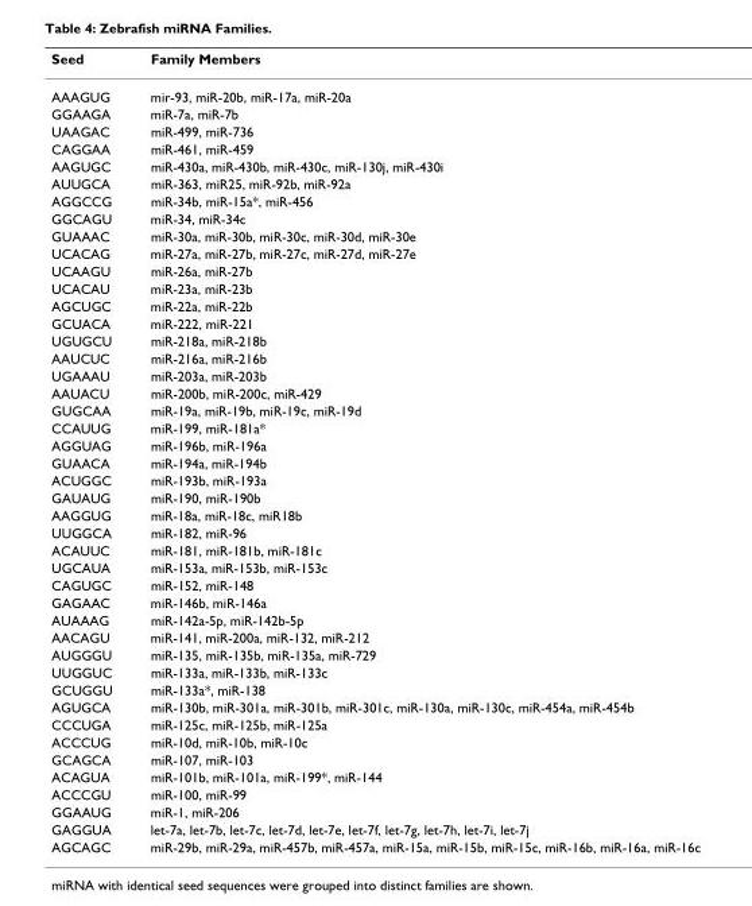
<table><thead><tr><td>Seed</td><td>Family Members</td></tr></thead><tbody><tr><td>AAAGUG</td><td>mir-93, miR-20b, miR-17a, miR-20a</td></tr><tr><td>GGAAGA</td><td>miR-7a, miR-7b</td></tr><tr><td>UAAGAC</td><td>miR-499, miR-736</td></tr><tr><td>CAGGAA</td><td>miR-461, miR-459</td></tr><tr><td>AAGUGC</td><td>miR-430a, miR-430b, miR-430c, miR-130j, miR-430i</td></tr><tr><td>AUUGCA</td><td>miR-363, miR25, miR-92b, miR-92a</td></tr><tr><td>AGGCCG</td><td>miR-34b, miR-15a*, miR-456</td></tr><tr><td>GGCAGU</td><td>miR-34, miR-34c</td></tr><tr><td>GUAAAC</td><td>miR-30a, miR-30b, miR-30c, miR-30d, miR-30e</td></tr><tr><td>UCACAG</td><td>miR-27a, miR-27b, miR-27c, miR-27d, miR-27e</td></tr><tr><td>UCAAGU</td><td>miR-26a, miR-27b</td></tr><tr><td>UCACAU</td><td>miR-23a, miR-23b</td></tr><tr><td>AGCUGC</td><td>miR-22a, miR-22b</td></tr><tr><td>GCUACA</td><td>miR-222, miR-221</td></tr><tr><td>UGUGCU</td><td>miR-218a, miR-218b</td></tr><tr><td>AAUCUC</td><td>miR-216a, miR-216b</td></tr><tr><td>UGAAAU</td><td>miR-203a, miR-203b</td></tr><tr><td>AAUACU</td><td>miR-200b, miR-200c, miR-429</td></tr><tr><td>GUGCAA</td><td>miR-19a, miR-19b, miR-19c, miR-19d</td></tr><tr><td>CCAUUG</td><td>miR-199, miR-181a*</td></tr><tr><td>AGGUAG</td><td>miR-196b, miR-196a</td></tr><tr><td>GUAACA</td><td>miR-194a, miR-194b</td></tr><tr><td>ACUGGC</td><td>miR-193b, miR-193a</td></tr><tr><td>GAUAUG</td><td>miR-190, miR-190b</td></tr><tr><td>AAGGUG</td><td>miR-18a, miR-18c, miR18b</td></tr><tr><td>UUGGCA</td><td>miR-182, miR-96</td></tr><tr><td>ACAUUC</td><td>miR-181, miR-181b, miR-181c</td></tr><tr><td>UGCAUA</td><td>miR-153a, miR-153b, miR-153c</td></tr><tr><td>CAGUGC</td><td>miR-152, miR-148</td></tr><tr><td>GAGAAC</td><td>miR-146b, miR-146a</td></tr><tr><td>AUAAAG</td><td>miR-142a-5p, miR-142b-5p</td></tr><tr><td>AACAGU</td><td>miR-141, miR-200a, miR-132, miR-212</td></tr><tr><td>AUGGGU</td><td>miR-135, miR-135b, miR-135a, miR-729</td></tr><tr><td>UUGGUC</td><td>miR-133a, miR-133b, miR-133c</td></tr><tr><td>GCUGGU</td><td>miR-133a*, miR-138</td></tr><tr><td>AGUGCA</td><td>miR-130b, miR-301a, miR-301b, miR-301c, miR-130a, miR-130c, miR-454a, miR-454b</td></tr><tr><td>CCCUGA</td><td>miR-125c, miR-125b, miR-125a</td></tr><tr><td>ACCCUG</td><td>miR-10d, miR-10b, miR-10c</td></tr><tr><td>GCAGCA</td><td>miR-107, miR-103</td></tr><tr><td>ACAGUA</td><td>miR-101b, miR-101a, miR-199*, miR-144</td></tr><tr><td>ACCCGU</td><td>miR-100, miR-99</td></tr><tr><td>GGAAUG</td><td>miR-1, miR-206</td></tr><tr><td>GAGGUA</td><td>let-7a, let-7b, let-7c, let-7d, let-7e, let-7f, let-7g, let-7h, let-7i, let-7j</td></tr><tr><td>AGCAGC</td><td>miR-29b, miR-29a, miR-457b, miR-457a, miR-15a, miR-15b, miR-15c, miR-16b, miR-16a, miR-16c</td></tr></tbody></table>